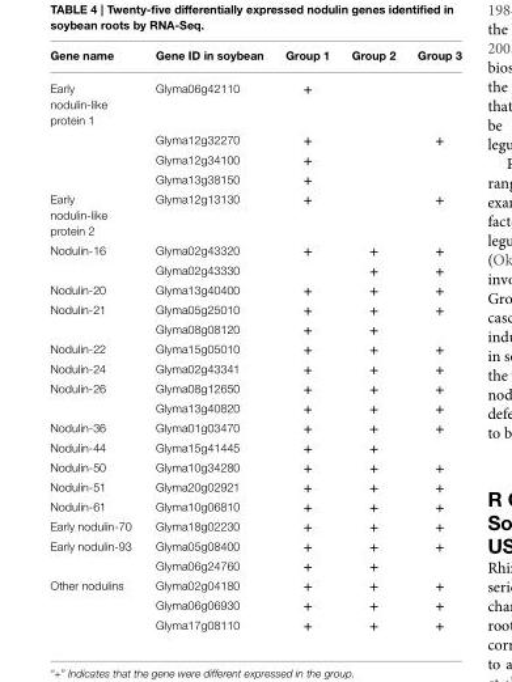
<table><thead><tr><td>Gene name</td><td>Gene ID in soybean</td><td>Group 1</td><td>Group 2</td><td>Group 3</td></tr></thead><tbody><tr><td rowspan="4">Early nodulin-like protein 1</td><td>Glyma06g42110</td><td>+</td><td></td><td></td></tr><tr><td>Glyma12g32270</td><td>+</td><td></td><td>+</td></tr><tr><td>Glyma12g34100</td><td>+</td><td></td><td></td></tr><tr><td>Glyma13g38150</td><td>+</td><td></td><td></td></tr><tr><td>Early nodulin-like protein 2</td><td>Glyma12g13130</td><td>+</td><td></td><td>+</td></tr><tr><td rowspan="2">Nodulin-16</td><td>Glyma02g43320</td><td>+</td><td>+</td><td>+</td></tr><tr><td>Glyma02g43330</td><td></td><td>+</td><td>+</td></tr><tr><td>Nodulin-20</td><td>Glyma13g40400</td><td>+</td><td>+</td><td>+</td></tr><tr><td rowspan="2">Nodulin-21</td><td>Glyma05g25010</td><td>+</td><td>+</td><td>+</td></tr><tr><td>Glyma08g08120</td><td>+</td><td>+</td><td></td></tr><tr><td>Nodulin-22</td><td>Glyma15g05010</td><td>+</td><td>+</td><td>+</td></tr><tr><td>Nodulin-24</td><td>Glyma02g43341</td><td>+</td><td>+</td><td>+</td></tr><tr><td rowspan="2">Nodulin-26</td><td>Glyma08g12650</td><td>+</td><td>+</td><td>+</td></tr><tr><td>Glyma13g40820</td><td>+</td><td>+</td><td>+</td></tr><tr><td>Nodulin-36</td><td>Glyma01g03470</td><td>+</td><td>+</td><td>+</td></tr><tr><td>Nodulin-44</td><td>Glyma15g41445</td><td>+</td><td>+</td><td></td></tr><tr><td>Nodulin-50</td><td>Glyma10g34280</td><td>+</td><td>+</td><td>+</td></tr><tr><td>Nodulin-51</td><td>Glyma20g02921</td><td>+</td><td>+</td><td>+</td></tr><tr><td>Nodulin-61</td><td>Glyma10g06810</td><td>+</td><td>+</td><td>+</td></tr><tr><td>Early nodulin-70</td><td>Glyma18g02230</td><td>+</td><td>+</td><td>+</td></tr><tr><td rowspan="2">Early nodulin-93</td><td>Glyma05g08400</td><td>+</td><td>+</td><td>+</td></tr><tr><td>Glyma06g24760</td><td>+</td><td>+</td><td></td></tr><tr><td rowspan="3">Other nodulins</td><td>Glyma02g04180</td><td>+</td><td>+</td><td>+</td></tr><tr><td>Glyma06g06930</td><td>+</td><td>+</td><td>+</td></tr><tr><td>Glyma17g08110</td><td>+</td><td>+</td><td>+</td></tr></tbody></table>